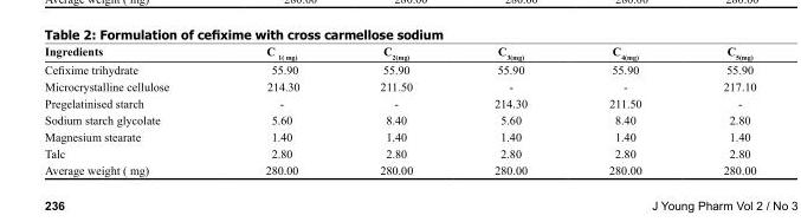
<table><thead><tr><td>Ingredients</td><td>C <sub>1( mg)</sub></td><td>C<sub>2(mg)</sub></td><td>C<sub>3(mg)</sub></td><td>C<sub>4(mg)</sub></td><td>C<sub>5(mg)</sub></td></tr></thead><tbody><tr><td>Cefixime trihydrate</td><td>55.90</td><td>55.90</td><td>55.90</td><td>55.90</td><td>55.90</td></tr><tr><td>Microcrystalline cellulose</td><td>214.30</td><td>211.50</td><td>-</td><td>-</td><td>217.10</td></tr><tr><td>Pregelatinised starch</td><td>-</td><td>-</td><td>214.30</td><td>211.50</td><td>-</td></tr><tr><td>Sodium starch glycolate</td><td>5.60</td><td>8.40</td><td>5.60</td><td>8.40</td><td>2.80</td></tr><tr><td>Magnesium stearate</td><td>1.40</td><td>1.40</td><td>1.40</td><td>1.40</td><td>1.40</td></tr><tr><td>Talc</td><td>2.80</td><td>2.80</td><td>2.80</td><td>2.80</td><td>2.80</td></tr><tr><td>Average weight ( mg)</td><td>280.00</td><td>280.00</td><td>280.00</td><td>280.00</td><td>280.00</td></tr></tbody></table>